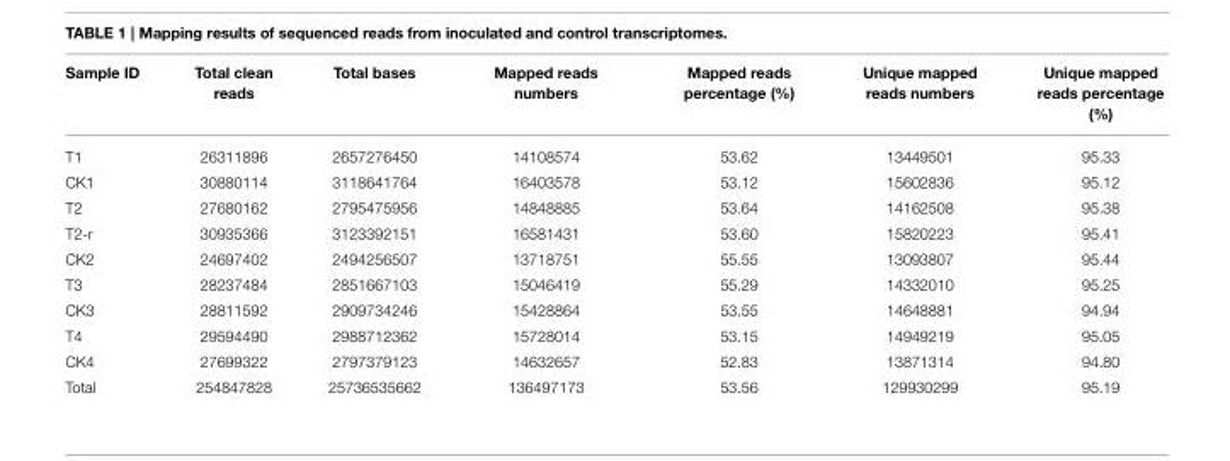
<table><thead><tr><td>Sample ID</td><td>Total clean reads</td><td>Total bases</td><td>Mapped reads numbers</td><td>Mapped reads percentage (%)</td><td>Unique mapped reads numbers</td><td>Unique mapped reads percentage (%)</td></tr></thead><tbody><tr><td>T1</td><td>26311896</td><td>2657276450</td><td>14108574</td><td>53.62</td><td>13449501</td><td>95.33</td></tr><tr><td>CK1</td><td>30880114</td><td>3118641764</td><td>16403578</td><td>53.12</td><td>15602836</td><td>95.12</td></tr><tr><td>T2</td><td>27680162</td><td>2795475956</td><td>14848885</td><td>53.64</td><td>14162508</td><td>95.38</td></tr><tr><td>T2-r</td><td>30935366</td><td>3123392151</td><td>16581431</td><td>53.60</td><td>15820223</td><td>95.41</td></tr><tr><td>CK2</td><td>24697402</td><td>2494256507</td><td>13718751</td><td>55.55</td><td>13093807</td><td>95.44</td></tr><tr><td>T3</td><td>28237484</td><td>2851667103</td><td>15046419</td><td>55.29</td><td>14332010</td><td>95.25</td></tr><tr><td>CK3</td><td>28811592</td><td>2909734246</td><td>15428864</td><td>53.55</td><td>14648881</td><td>94.94</td></tr><tr><td>T4</td><td>29594490</td><td>2988712362</td><td>15728014</td><td>53.15</td><td>14949219</td><td>95.05</td></tr><tr><td>CK4</td><td>27699322</td><td>2797379123</td><td>14632657</td><td>52.83</td><td>13871314</td><td>94.80</td></tr><tr><td>Total</td><td>254847828</td><td>25736535662</td><td>136497173</td><td>53.56</td><td>129930299</td><td>95.19</td></tr></tbody></table>